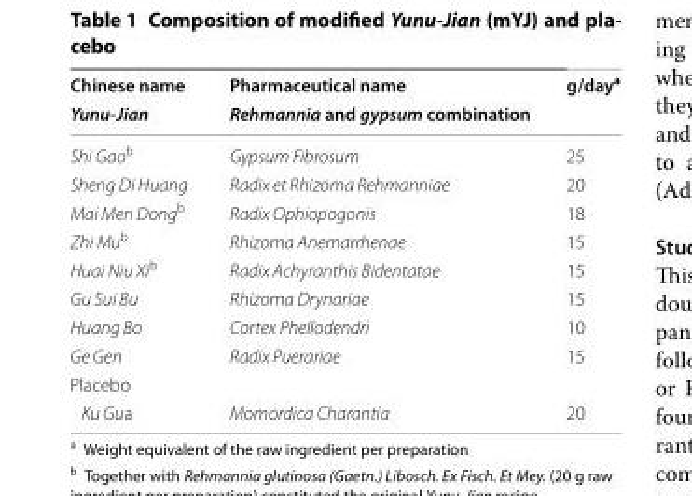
<table><thead><tr><td rowspan="2">Chinese name Yunu-Jian</td><td rowspan="2">Pharmaceutical name Rehmannia and gypsum combination</td><td rowspan="2">g/day<sup>a</sup></td></tr><tr></tr></thead><tbody><tr><td>Shi Gao<sup>b</sup></td><td>Gypsum Fibrosum</td><td>25</td></tr><tr><td>Sheng Di Huang</td><td>Radix et Rhizoma Rehmanniae</td><td>20</td></tr><tr><td>Mai Men Dong<sup>b</sup></td><td>Radix Ophiopogonis</td><td>18</td></tr><tr><td>Zhi Mu<sup>b</sup></td><td>Rhizoma Anemarrhenae</td><td>15</td></tr><tr><td>Huai Niu Xi<sup>b</sup></td><td>Radix Achyranthis Bidentatae</td><td>15</td></tr><tr><td>Gu Sui Bu</td><td>Rhizoma Drynariae</td><td>15</td></tr><tr><td>Huang Bo</td><td>Cortex Phellodendri</td><td>10</td></tr><tr><td>Ge Gen</td><td>Radix Puerariae</td><td>15</td></tr><tr><td colspan="3">Placebo</td></tr><tr><td>Ku Gua</td><td>Momordica Charantia</td><td>20</td></tr></tbody></table>